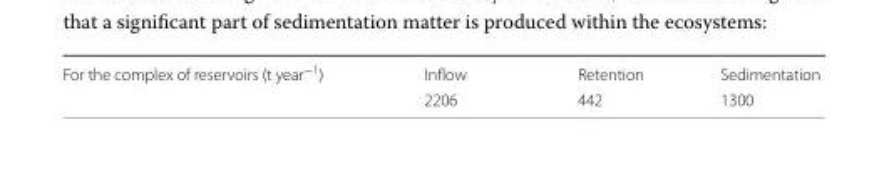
<table><tbody><tr><td rowspan="2">For the complex of reservoirs (t year<sup>−1</sup>)</td><td>Inflow</td><td>Retention</td><td>Sedimentation</td></tr><tr><td>2206</td><td>442</td><td>1300</td></tr></tbody></table>